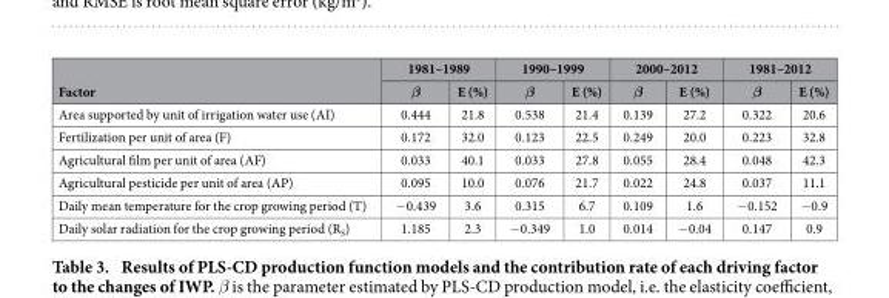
<table><thead><tr><td rowspan="2">Factor</td><td colspan="2">1981–1989</td><td colspan="2">1990–1999</td><td colspan="2">2000–2012</td><td colspan="2">1981–2012</td></tr><tr><td>β</td><td>E (%)</td><td>β</td><td>E (%)</td><td>β</td><td>E (%)</td><td>β</td><td>E (%)</td></tr></thead><tbody><tr><td>Area supported by unit of irrigation water use (AI)</td><td>0.444</td><td>21.8</td><td>0.538</td><td>21.4</td><td>0.139</td><td>27.2</td><td>0.322</td><td>20.6</td></tr><tr><td>Fertilization per unit of area (F)</td><td>0.172</td><td>32.0</td><td>0.123</td><td>22.5</td><td>0.249</td><td>20.0</td><td>0.223</td><td>32.8</td></tr><tr><td>Agricultural film per unit of area (AF)</td><td>0.033</td><td>40.1</td><td>0.033</td><td>27.8</td><td>0.055</td><td>28.4</td><td>0.048</td><td>42.3</td></tr><tr><td>Agricultural pesticide per unit of area (AP)</td><td>0.095</td><td>10.0</td><td>0.076</td><td>21.7</td><td>0.022</td><td>24.8</td><td>0.037</td><td>11.1</td></tr><tr><td>Daily mean temperature for the crop growing period (T)</td><td>− 0.439</td><td>3.6</td><td>0.315</td><td>6.7</td><td>0.109</td><td>1.6</td><td>− 0.152</td><td>− 0.9</td></tr><tr><td>Daily solar radiation for the crop growing period (R<sub>S</sub>)</td><td>1.185</td><td>2.3</td><td>− 0.349</td><td>1.0</td><td>0.014</td><td>− 0.04</td><td>0.147</td><td>0.9</td></tr></tbody></table>